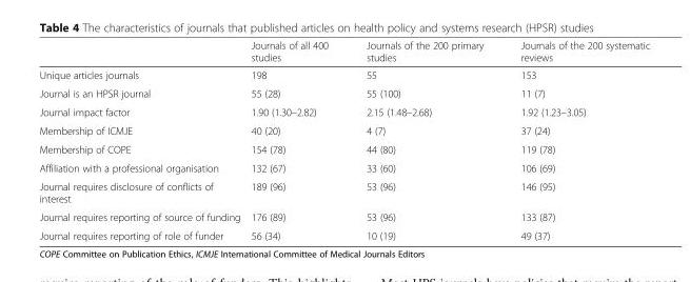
<table><thead><tr><td></td><td>Journals of all 400 studies</td><td>Journals of the 200 primary studies</td><td>Journals of the 200 systematic reviews</td></tr></thead><tbody><tr><td>Unique articles journals</td><td>198</td><td>55</td><td>153</td></tr><tr><td>Journal is an HPSR journal</td><td>55 (28)</td><td>55 (100)</td><td>11 (7)</td></tr><tr><td>Journal impact factor</td><td>1.90 (1.30–2.82)</td><td>2.15 (1.48–2.68)</td><td>1.92 (1.23–3.05)</td></tr><tr><td>Membership of ICMJE</td><td>40 (20)</td><td>4 (7)</td><td>37 (24)</td></tr><tr><td>Membership of COPE</td><td>154 (78)</td><td>44 (80)</td><td>119 (78)</td></tr><tr><td>Affiliation with a professional organisation</td><td>132 (67)</td><td>33 (60)</td><td>106 (69)</td></tr><tr><td>Journal requires disclosure of conflicts of interest</td><td>189 (96)</td><td>53 (96)</td><td>146 (95)</td></tr><tr><td>Journal requires reporting of source of funding</td><td>176 (89)</td><td>53 (96)</td><td>133 (87)</td></tr><tr><td>Journal requires reporting of role of funder</td><td>56 (34)</td><td>10 (19)</td><td>49 (37)</td></tr></tbody></table>